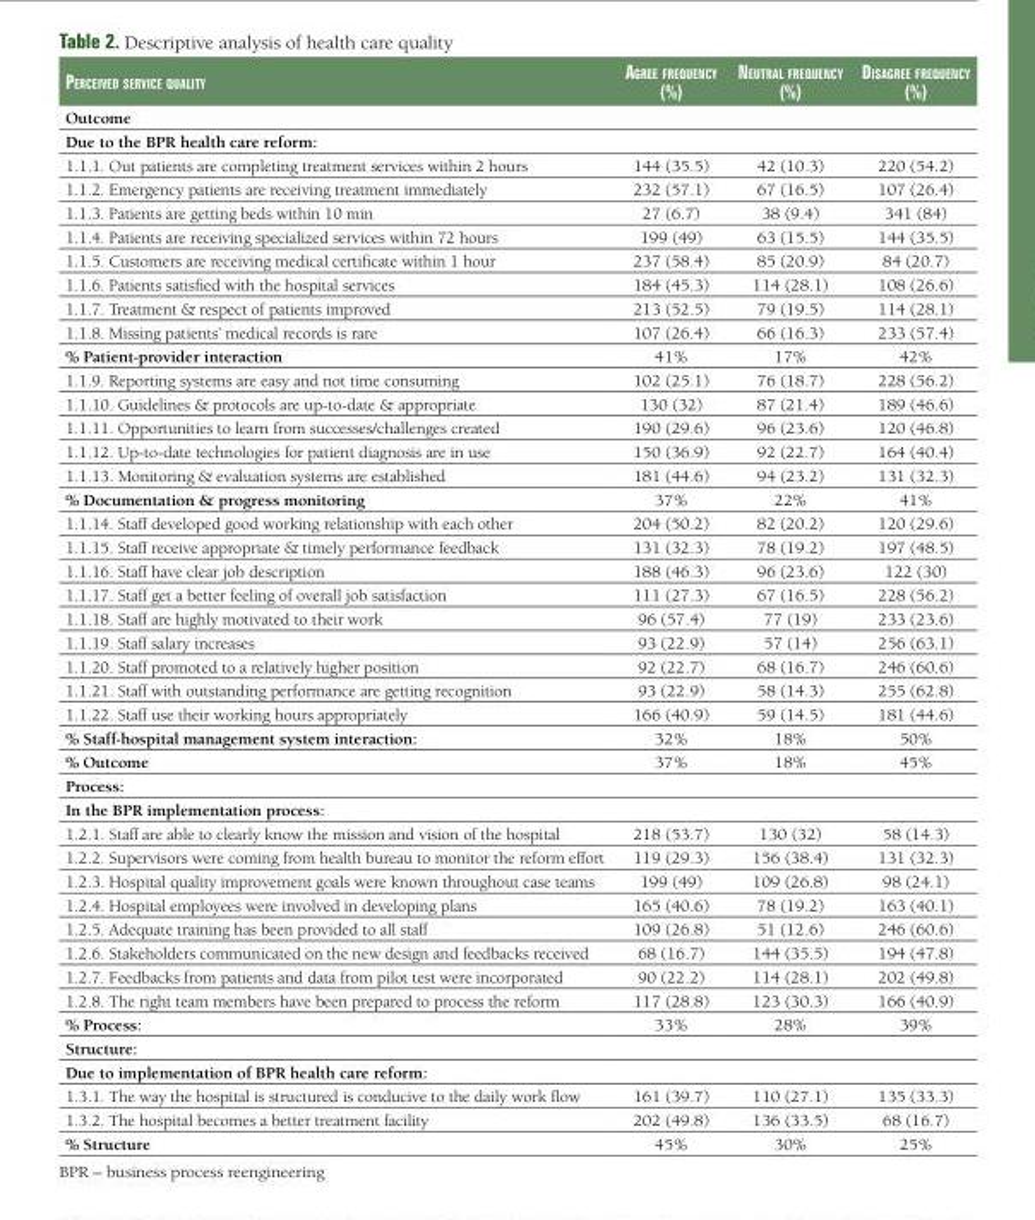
<table><thead><tr><td>PerCeIved servICe qualIty</td><td>agree frequenCy (%)</td><td>neutral frequenCy (%)</td><td>dIsagree frequenCy (%)</td></tr></thead><tbody><tr><td colspan="4">Outcome</td></tr><tr><td colspan="4">Due to the BPR health care reform:</td></tr><tr><td>1.1.1. Out patients are completing treatment services within 2 hours</td><td>144 (35.5)</td><td>42 (10.3)</td><td>220 (54.2)</td></tr><tr><td>1.1.2. Emergency patients are receiving treatment immediately</td><td>232 (57.1)</td><td>67 (16.5)</td><td>107 (26.4)</td></tr><tr><td>1.1.3. Patients are getting beds within 10 min</td><td>27 (6.7)</td><td>38 (9.4)</td><td>341 (84)</td></tr><tr><td>1.1.4. Patients are receiving specialized services within 72 hours</td><td>199 (49)</td><td>63 (15.5)</td><td>144 (35.5)</td></tr><tr><td>1.1.5. Customers are receiving medical certificate within 1 hour</td><td>237 (58.4)</td><td>85 (20.9)</td><td>84 (20.7)</td></tr><tr><td>1.1.6. Patients satisfied with the hospital services</td><td>184 (45.3)</td><td>114 (28.1)</td><td>108 (26.6)</td></tr><tr><td>1.1.7. Treatment &amp; respect of patients improved</td><td>213 (52.5)</td><td>79 (19.5)</td><td>114 (28.1)</td></tr><tr><td>1.1.8. Missing patients’ medical records is rare</td><td>107 (26.4)</td><td>66 (16.3)</td><td>233 (57.4)</td></tr><tr><td>% Patient-provider interaction</td><td>41%</td><td>17%</td><td>42%</td></tr><tr><td>1.1.9. Reporting systems are easy and not time consuming</td><td>102 (25.1)</td><td>76 (18.7)</td><td>228 (56.2)</td></tr><tr><td>1.1.10. Guidelines &amp; protocols are up-to-date &amp; appropriate</td><td>130 (32)</td><td>87 (21.4)</td><td>189 (46.6)</td></tr><tr><td>1.1.11. Opportunities to learn from successes/challenges created</td><td>190 (29.6)</td><td>96 (23.6)</td><td>120 (46.8)</td></tr><tr><td>1.1.12. Up-to-date technologies for patient diagnosis are in use</td><td>150 (36.9)</td><td>92 (22.7)</td><td>164 (40.4)</td></tr><tr><td>1.1.13. Monitoring &amp; evaluation systems are established</td><td>181 (44.6)</td><td>94 (23.2)</td><td>131 (32.3)</td></tr><tr><td>% Documentation &amp; progress monitoring</td><td>37%</td><td>22%</td><td>41%</td></tr><tr><td>1.1.14. Staff developed good working relationship with each other</td><td>204 (50.2)</td><td>82 (20.2)</td><td>120 (29.6)</td></tr><tr><td>1.1.15. Staff receive appropriate &amp; timely performance feedback</td><td>131 (32.3)</td><td>78 (19.2)</td><td>197 (48.5)</td></tr><tr><td>1.1.16. Staff have clear job description</td><td>188 (46.3)</td><td>96 (23.6)</td><td>122 (30)</td></tr><tr><td>1.1.17. Staff get a better feeling of overall job satisfaction</td><td>111 (27.3)</td><td>67 (16.5)</td><td>228 (56.2)</td></tr><tr><td>1.1.18. Staff are highly motivated to their work</td><td>96 (57.4)</td><td>77 (19)</td><td>233 (23.6)</td></tr><tr><td>1.1.19. Staff salary increases</td><td>93 (22.9)</td><td>57 (14)</td><td>256 (63.1)</td></tr><tr><td>1.1.20. Staff promoted to a relatively higher position</td><td>92 (22.7)</td><td>68 (16.7)</td><td>246 (60.6)</td></tr><tr><td>1.1.21. Staff with outstanding performance are getting recognition</td><td>93 (22.9)</td><td>58 (14.3)</td><td>255 (62.8)</td></tr><tr><td>1.1.22. Staff use their working hours appropriately</td><td>166 (40.9)</td><td>59 (14.5)</td><td>181 (44.6)</td></tr><tr><td>% Staff-hospital management system interaction:</td><td>32%</td><td>18%</td><td>50%</td></tr><tr><td>% Outcome</td><td>37%</td><td>18%</td><td>45%</td></tr><tr><td colspan="4">Process:</td></tr><tr><td colspan="4">In the BPR implementation process:</td></tr><tr><td>1.2.1. Staff are able to clearly know the mission and vision of the hospital</td><td>218 (53.7)</td><td>130 (32)</td><td>58 (14.3)</td></tr><tr><td>1.2.2. Supervisors were coming from health bureau to monitor the reform effort</td><td>119 (29.3)</td><td>156 (38.4)</td><td>131 (32.3)</td></tr><tr><td>1.2.3. Hospital quality improvement goals were known throughout case teams</td><td>199 (49)</td><td>109 (26.8)</td><td>98 (24.1)</td></tr><tr><td>1.2.4. Hospital employees were involved in developing plans</td><td>165 (40.6)</td><td>78 (19.2)</td><td>163 (40.1)</td></tr><tr><td>1.2.5. Adequate training has been provided to all staff</td><td>109 (26.8)</td><td>51 (12.6)</td><td>246 (60.6)</td></tr><tr><td>1.2.6. Stakeholders communicated on the new design and feedbacks received</td><td>68 (16.7)</td><td>144 (35.5)</td><td>194 (47.8)</td></tr><tr><td>1.2.7. Feedbacks from patients and data from pilot test were incorporated</td><td>90 (22.2)</td><td>114 (28.1)</td><td>202 (49.8)</td></tr><tr><td>1.2.8. The right team members have been prepared to process the reform</td><td>117 (28.8)</td><td>123 (30.3)</td><td>166 (40.9)</td></tr><tr><td>% Process:</td><td>33%</td><td>28%</td><td>39%</td></tr><tr><td colspan="4">Structure:</td></tr><tr><td colspan="4">Due to implementation of BPR health care reform:</td></tr><tr><td>1.3.1. The way the hospital is structured is conducive to the daily work flow</td><td>161 (39.7)</td><td>110 (27.1)</td><td>135 (33.3)</td></tr><tr><td>1.3.2. The hospital becomes a better treatment facility</td><td>202 (49.8)</td><td>136 (33.5)</td><td>68 (16.7)</td></tr><tr><td>% Structure</td><td>45%</td><td>30%</td><td>25%</td></tr></tbody></table>